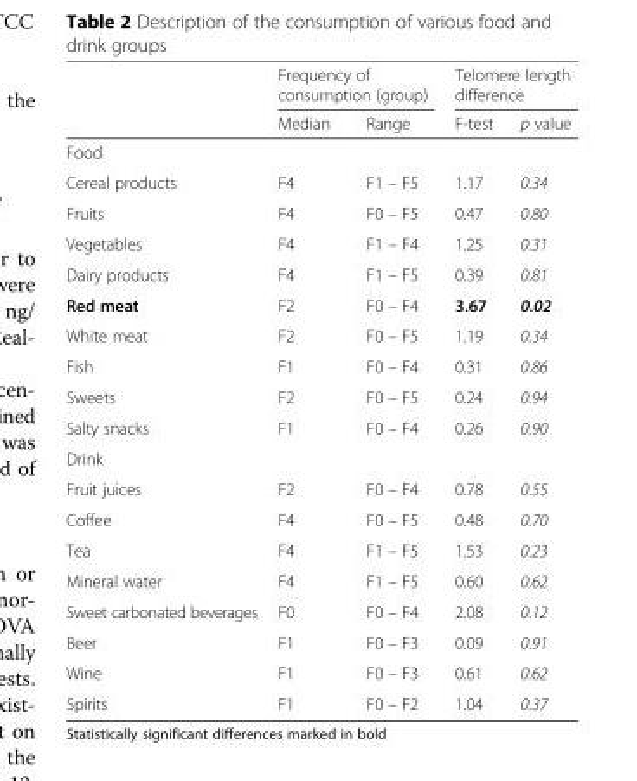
<table><thead><tr><td rowspan="2"></td><td colspan="2">Frequency of consumption (group)</td><td colspan="2">Telomere length difference</td></tr><tr><td>Median</td><td>Range</td><td>F-test</td><td>p value</td></tr></thead><tbody><tr><td colspan="5">Food</td></tr><tr><td>Cereal products</td><td>F4</td><td>F1 – F5</td><td>1.17</td><td>0.34</td></tr><tr><td>Fruits</td><td>F4</td><td>F0 – F5</td><td>0.47</td><td>0.80</td></tr><tr><td>Vegetables</td><td>F4</td><td>F1 – F4</td><td>1.25</td><td>0.31</td></tr><tr><td>Dairy products</td><td>F4</td><td>F1 – F5</td><td>0.39</td><td>0.81</td></tr><tr><td>Red meat</td><td>F2</td><td>F0 – F4</td><td>3.67</td><td>0.02</td></tr><tr><td>White meat</td><td>F2</td><td>F0 – F5</td><td>1.19</td><td>0.34</td></tr><tr><td>Fish</td><td>F1</td><td>F0 – F4</td><td>0.31</td><td>0.86</td></tr><tr><td>Sweets</td><td>F2</td><td>F0 – F5</td><td>0.24</td><td>0.94</td></tr><tr><td>Salty snacks</td><td>F1</td><td>F0 – F4</td><td>0.26</td><td>0.90</td></tr><tr><td colspan="5">Drink</td></tr><tr><td>Fruit juices</td><td>F2</td><td>F0 – F4</td><td>0.78</td><td>0.55</td></tr><tr><td>Coffee</td><td>F4</td><td>F0 – F5</td><td>0.48</td><td>0.70</td></tr><tr><td>Tea</td><td>F4</td><td>F1 – F5</td><td>1.53</td><td>0.23</td></tr><tr><td>Mineral water</td><td>F4</td><td>F1 – F5</td><td>0.60</td><td>0.62</td></tr><tr><td>Sweet carbonated beverages</td><td>F0</td><td>F0 – F4</td><td>2.08</td><td>0.12</td></tr><tr><td>Beer</td><td>F1</td><td>F0 – F3</td><td>0.09</td><td>0.91</td></tr><tr><td>Wine</td><td>F1</td><td>F0 – F3</td><td>0.61</td><td>0.62</td></tr><tr><td>Spirits</td><td>F1</td><td>F0 – F2</td><td>1.04</td><td>0.37</td></tr></tbody></table>